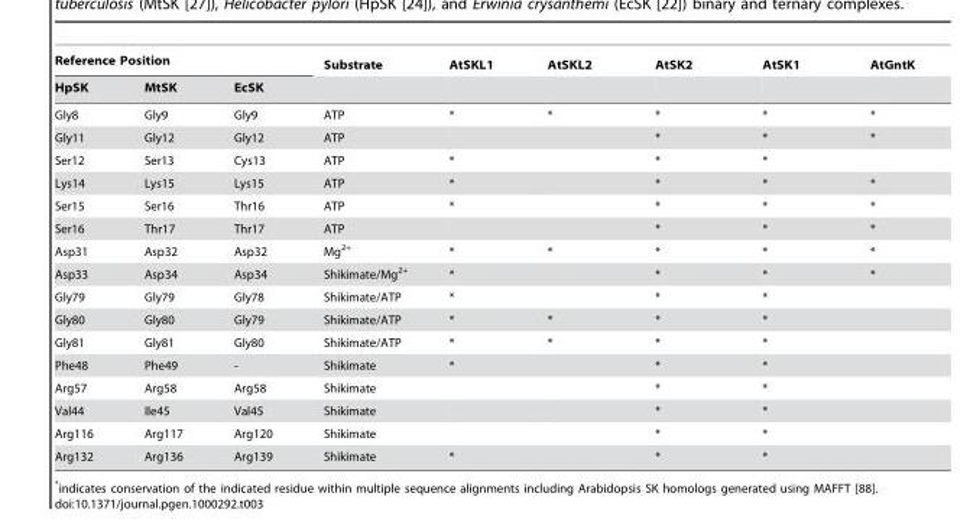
<table><thead><tr><td colspan="3">Reference Position</td><td rowspan="2">Substrate</td><td rowspan="2">AtSKL1</td><td rowspan="2">AtSKL2</td><td rowspan="2">AtSK2</td><td rowspan="2">AtSK1</td><td rowspan="2">AtGntK</td></tr><tr><td>HpSK</td><td>MtSK</td><td>EcSK</td></tr></thead><tbody><tr><td>Gly8</td><td>Gly9</td><td>Gly9</td><td>ATP</td><td>*</td><td>*</td><td>*</td><td>*</td><td>*</td></tr><tr><td>Gly11</td><td>Gly12</td><td>Gly12</td><td>ATP</td><td></td><td></td><td>*</td><td>*</td><td>*</td></tr><tr><td>Ser12</td><td>Ser13</td><td>Cys13</td><td>ATP</td><td>*</td><td></td><td>*</td><td>*</td><td></td></tr><tr><td>Lys14</td><td>Lys15</td><td>Lys15</td><td>ATP</td><td>*</td><td></td><td>*</td><td>*</td><td>*</td></tr><tr><td>Ser15</td><td>Ser16</td><td>Thr16</td><td>ATP</td><td>*</td><td></td><td>*</td><td>*</td><td>*</td></tr><tr><td>Ser16</td><td>Thr17</td><td>Thr17</td><td>ATP</td><td></td><td></td><td>*</td><td>*</td><td>*</td></tr><tr><td>Asp31</td><td>Asp32</td><td>Asp32</td><td>Mg<sup>2+</sup></td><td>*</td><td>*</td><td>*</td><td>*</td><td>*</td></tr><tr><td>Asp33</td><td>Asp34</td><td>Asp34</td><td>Shikimate/Mg<sup>2+</sup></td><td>*</td><td></td><td>*</td><td>*</td><td>*</td></tr><tr><td>Gly79</td><td>Gly79</td><td>Gly78</td><td>Shikimate/ATP</td><td>*</td><td></td><td>*</td><td>*</td><td></td></tr><tr><td>Gly80</td><td>Gly80</td><td>Gly79</td><td>Shikimate/ATP</td><td>*</td><td>*</td><td>*</td><td>*</td><td></td></tr><tr><td>Gly81</td><td>Gly81</td><td>Gly80</td><td>Shikimate/ATP</td><td>*</td><td>*</td><td>*</td><td>*</td><td></td></tr><tr><td>Phe48</td><td>Phe49</td><td>-</td><td>Shikimate</td><td>*</td><td></td><td>*</td><td>*</td><td></td></tr><tr><td>Arg57</td><td>Arg58</td><td>Arg58</td><td>Shikimate</td><td></td><td></td><td>*</td><td>*</td><td></td></tr><tr><td>Val44</td><td>Ile45</td><td>Val45</td><td>Shikimate</td><td></td><td></td><td>*</td><td>*</td><td></td></tr><tr><td>Arg116</td><td>Arg117</td><td>Arg120</td><td>Shikimate</td><td></td><td></td><td>*</td><td>*</td><td></td></tr><tr><td>Arg132</td><td>Arg136</td><td>Arg139</td><td>Shikimate</td><td>*</td><td></td><td>*</td><td>*</td><td></td></tr></tbody></table>